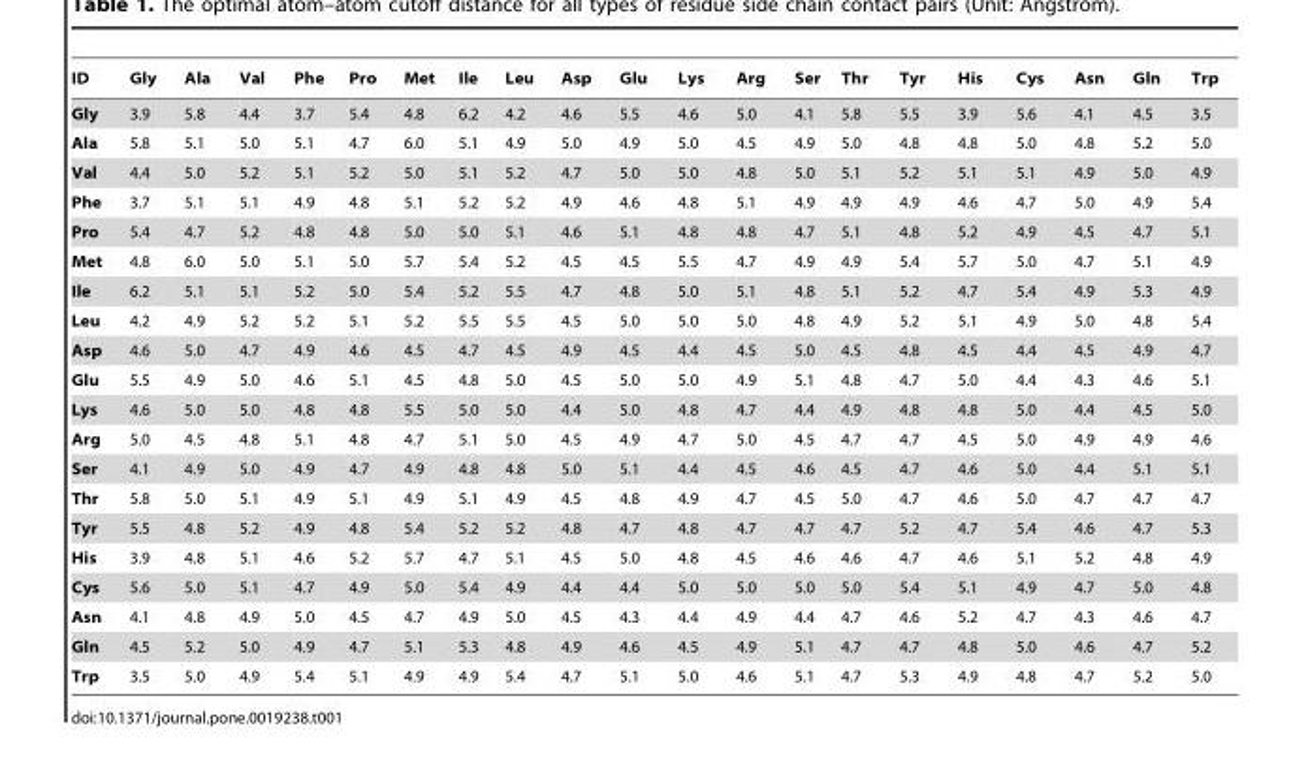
<table><thead><tr><td>ID</td><td>Gly</td><td>Ala</td><td>Val</td><td>Phe</td><td>Pro</td><td>Met</td><td>Ile</td><td>Leu</td><td>Asp</td><td>Glu</td><td>Lys</td><td>Arg</td><td>Ser</td><td>Thr</td><td>Tyr</td><td>His</td><td>Cys</td><td>Asn</td><td>Gln</td><td>Trp</td></tr></thead><tbody><tr><td>Gly</td><td>3.9</td><td>5.8</td><td>4.4</td><td>3.7</td><td>5.4</td><td>4.8</td><td>6.2</td><td>4.2</td><td>4.6</td><td>5.5</td><td>4.6</td><td>5.0</td><td>4.1</td><td>5.8</td><td>5.5</td><td>3.9</td><td>5.6</td><td>4.1</td><td>4.5</td><td>3.5</td></tr><tr><td>Ala</td><td>5.8</td><td>5.1</td><td>5.0</td><td>5.1</td><td>4.7</td><td>6.0</td><td>5.1</td><td>4.9</td><td>5.0</td><td>4.9</td><td>5.0</td><td>4.5</td><td>4.9</td><td>5.0</td><td>4.8</td><td>4.8</td><td>5.0</td><td>4.8</td><td>5.2</td><td>5.0</td></tr><tr><td>Val</td><td>4.4</td><td>5.0</td><td>5.2</td><td>5.1</td><td>5.2</td><td>5.0</td><td>5.1</td><td>5.2</td><td>4.7</td><td>5.0</td><td>5.0</td><td>4.8</td><td>5.0</td><td>5.1</td><td>5.2</td><td>5.1</td><td>5.1</td><td>4.9</td><td>5.0</td><td>4.9</td></tr><tr><td>Phe</td><td>3.7</td><td>5.1</td><td>5.1</td><td>4.9</td><td>4.8</td><td>5.1</td><td>5.2</td><td>5.2</td><td>4.9</td><td>4.6</td><td>4.8</td><td>5.1</td><td>4.9</td><td>4.9</td><td>4.9</td><td>4.6</td><td>4.7</td><td>5.0</td><td>4.9</td><td>5.4</td></tr><tr><td>Pro</td><td>5.4</td><td>4.7</td><td>5.2</td><td>4.8</td><td>4.8</td><td>5.0</td><td>5.0</td><td>5.1</td><td>4.6</td><td>5.1</td><td>4.8</td><td>4.8</td><td>4.7</td><td>5.1</td><td>4.8</td><td>5.2</td><td>4.9</td><td>4.5</td><td>4.7</td><td>5.1</td></tr><tr><td>Met</td><td>4.8</td><td>6.0</td><td>5.0</td><td>5.1</td><td>5.0</td><td>5.7</td><td>5.4</td><td>5.2</td><td>4.5</td><td>4.5</td><td>5.5</td><td>4.7</td><td>4.9</td><td>4.9</td><td>5.4</td><td>5.7</td><td>5.0</td><td>4.7</td><td>5.1</td><td>4.9</td></tr><tr><td>Ile</td><td>6.2</td><td>5.1</td><td>5.1</td><td>5.2</td><td>5.0</td><td>5.4</td><td>5.2</td><td>5.5</td><td>4.7</td><td>4.8</td><td>5.0</td><td>5.1</td><td>4.8</td><td>5.1</td><td>5.2</td><td>4.7</td><td>5.4</td><td>4.9</td><td>5.3</td><td>4.9</td></tr><tr><td>Leu</td><td>4.2</td><td>4.9</td><td>5.2</td><td>5.2</td><td>5.1</td><td>5.2</td><td>5.5</td><td>5.5</td><td>4.5</td><td>5.0</td><td>5.0</td><td>5.0</td><td>4.8</td><td>4.9</td><td>5.2</td><td>5.1</td><td>4.9</td><td>5.0</td><td>4.8</td><td>5.4</td></tr><tr><td>Asp</td><td>4.6</td><td>5.0</td><td>4.7</td><td>4.9</td><td>4.6</td><td>4.5</td><td>4.7</td><td>4.5</td><td>4.9</td><td>4.5</td><td>4.4</td><td>4.5</td><td>5.0</td><td>4.5</td><td>4.8</td><td>4.5</td><td>4.4</td><td>4.5</td><td>4.9</td><td>4.7</td></tr><tr><td>Glu</td><td>5.5</td><td>4.9</td><td>5.0</td><td>4.6</td><td>5.1</td><td>4.5</td><td>4.8</td><td>5.0</td><td>4.5</td><td>5.0</td><td>5.0</td><td>4.9</td><td>5.1</td><td>4.8</td><td>4.7</td><td>5.0</td><td>4.4</td><td>4.3</td><td>4.6</td><td>5.1</td></tr><tr><td>Lys</td><td>4.6</td><td>5.0</td><td>5.0</td><td>4.8</td><td>4.8</td><td>5.5</td><td>5.0</td><td>5.0</td><td>4.4</td><td>5.0</td><td>4.8</td><td>4.7</td><td>4.4</td><td>4.9</td><td>4.8</td><td>4.8</td><td>5.0</td><td>4.4</td><td>4.5</td><td>5.0</td></tr><tr><td>Arg</td><td>5.0</td><td>4.5</td><td>4.8</td><td>5.1</td><td>4.8</td><td>4.7</td><td>5.1</td><td>5.0</td><td>4.5</td><td>4.9</td><td>4.7</td><td>5.0</td><td>4.5</td><td>4.7</td><td>4.7</td><td>4.5</td><td>5.0</td><td>4.9</td><td>4.9</td><td>4.6</td></tr><tr><td>Ser</td><td>4.1</td><td>4.9</td><td>5.0</td><td>4.9</td><td>4.7</td><td>4.9</td><td>4.8</td><td>4.8</td><td>5.0</td><td>5.1</td><td>4.4</td><td>4.5</td><td>4.6</td><td>4.5</td><td>4.7</td><td>4.6</td><td>5.0</td><td>4.4</td><td>5.1</td><td>5.1</td></tr><tr><td>Thr</td><td>5.8</td><td>5.0</td><td>5.1</td><td>4.9</td><td>5.1</td><td>4.9</td><td>5.1</td><td>4.9</td><td>4.5</td><td>4.8</td><td>4.9</td><td>4.7</td><td>4.5</td><td>5.0</td><td>4.7</td><td>4.6</td><td>5.0</td><td>4.7</td><td>4.7</td><td>4.7</td></tr><tr><td>Tyr</td><td>5.5</td><td>4.8</td><td>5.2</td><td>4.9</td><td>4.8</td><td>5.4</td><td>5.2</td><td>5.2</td><td>4.8</td><td>4.7</td><td>4.8</td><td>4.7</td><td>4.7</td><td>4.7</td><td>5.2</td><td>4.7</td><td>5.4</td><td>4.6</td><td>4.7</td><td>5.3</td></tr><tr><td>His</td><td>3.9</td><td>4.8</td><td>5.1</td><td>4.6</td><td>5.2</td><td>5.7</td><td>4.7</td><td>5.1</td><td>4.5</td><td>5.0</td><td>4.8</td><td>4.5</td><td>4.6</td><td>4.6</td><td>4.7</td><td>4.6</td><td>5.1</td><td>5.2</td><td>4.8</td><td>4.9</td></tr><tr><td>Cys</td><td>5.6</td><td>5.0</td><td>5.1</td><td>4.7</td><td>4.9</td><td>5.0</td><td>5.4</td><td>4.9</td><td>4.4</td><td>4.4</td><td>5.0</td><td>5.0</td><td>5.0</td><td>5.0</td><td>5.4</td><td>5.1</td><td>4.9</td><td>4.7</td><td>5.0</td><td>4.8</td></tr><tr><td>Asn</td><td>4.1</td><td>4.8</td><td>4.9</td><td>5.0</td><td>4.5</td><td>4.7</td><td>4.9</td><td>5.0</td><td>4.5</td><td>4.3</td><td>4.4</td><td>4.9</td><td>4.4</td><td>4.7</td><td>4.6</td><td>5.2</td><td>4.7</td><td>4.3</td><td>4.6</td><td>4.7</td></tr><tr><td>Gln</td><td>4.5</td><td>5.2</td><td>5.0</td><td>4.9</td><td>4.7</td><td>5.1</td><td>5.3</td><td>4.8</td><td>4.9</td><td>4.6</td><td>4.5</td><td>4.9</td><td>5.1</td><td>4.7</td><td>4.7</td><td>4.8</td><td>5.0</td><td>4.6</td><td>4.7</td><td>5.2</td></tr><tr><td>Trp</td><td>3.5</td><td>5.0</td><td>4.9</td><td>5.4</td><td>5.1</td><td>4.9</td><td>4.9</td><td>5.4</td><td>4.7</td><td>5.1</td><td>5.0</td><td>4.6</td><td>5.1</td><td>4.7</td><td>5.3</td><td>4.9</td><td>4.8</td><td>4.7</td><td>5.2</td><td>5.0</td></tr></tbody></table>